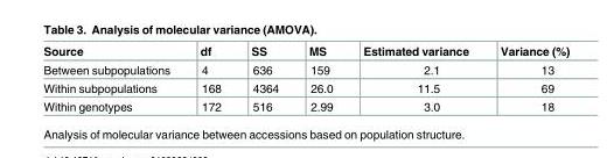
<table><thead><tr><td>Source</td><td>df</td><td>SS</td><td>MS</td><td>Estimated variance</td><td>Variance (%)</td></tr></thead><tbody><tr><td>Between subpopulations</td><td>4</td><td>636</td><td>159</td><td>2.1</td><td>13</td></tr><tr><td>Within subpopulations</td><td>168</td><td>4364</td><td>26.0</td><td>11.5</td><td>69</td></tr><tr><td>Within genotypes</td><td>172</td><td>516</td><td>2.99</td><td>3.0</td><td>18</td></tr></tbody></table>